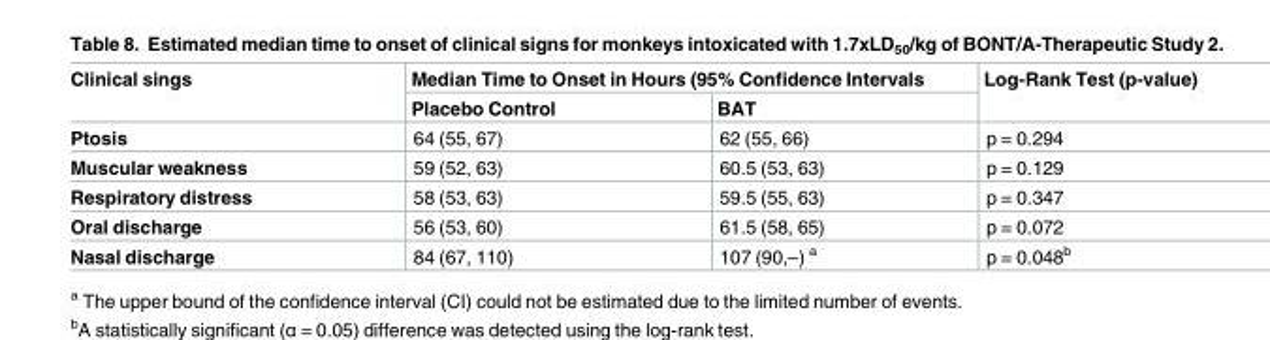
<table><thead><tr><td rowspan="2">Clinical sings</td><td colspan="2">Median Time to Onset in Hours (95% Confidence Intervals</td><td rowspan="2">Log-Rank Test (p-value)</td></tr><tr><td>Placebo Control</td><td>BAT</td></tr></thead><tbody><tr><td>Ptosis</td><td>64 (55, 67)</td><td>62 (55, 66)</td><td>p = 0.294</td></tr><tr><td>Muscular weakness</td><td>59 (52, 63)</td><td>60.5 (53, 63)</td><td>p = 0.129</td></tr><tr><td>Respiratory distress</td><td>58 (53, 63)</td><td>59.5 (55, 63)</td><td>p = 0.347</td></tr><tr><td>Oral discharge</td><td>56 (53, 60)</td><td>61.5 (58, 65)</td><td>p = 0.072</td></tr><tr><td>Nasal discharge</td><td>84 (67, 110)</td><td>107 (90,–) <sup>a</sup></td><td>p = 0.048<sup>b</sup></td></tr></tbody></table>